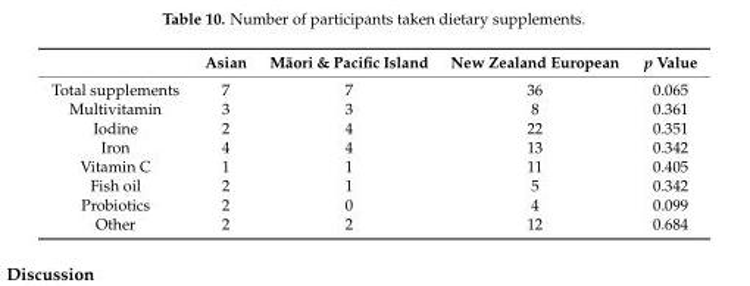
<table><thead><tr><td></td><td>Asian</td><td>M¯aori &amp; Pacific Island</td><td>New Zealand European</td><td>p Value</td></tr></thead><tbody><tr><td>Total supplements</td><td>7</td><td>7</td><td>36</td><td>0.065</td></tr><tr><td>Multivitamin</td><td>3</td><td>3</td><td>8</td><td>0.361</td></tr><tr><td>Iodine</td><td>2</td><td>4</td><td>22</td><td>0.351</td></tr><tr><td>Iron</td><td>4</td><td>4</td><td>13</td><td>0.342</td></tr><tr><td>Vitamin C</td><td>1</td><td>1</td><td>11</td><td>0.405</td></tr><tr><td>Fish oil</td><td>2</td><td>1</td><td>5</td><td>0.342</td></tr><tr><td>Probiotics</td><td>2</td><td>0</td><td>4</td><td>0.099</td></tr><tr><td>Other</td><td>2</td><td>2</td><td>12</td><td>0.684</td></tr></tbody></table>